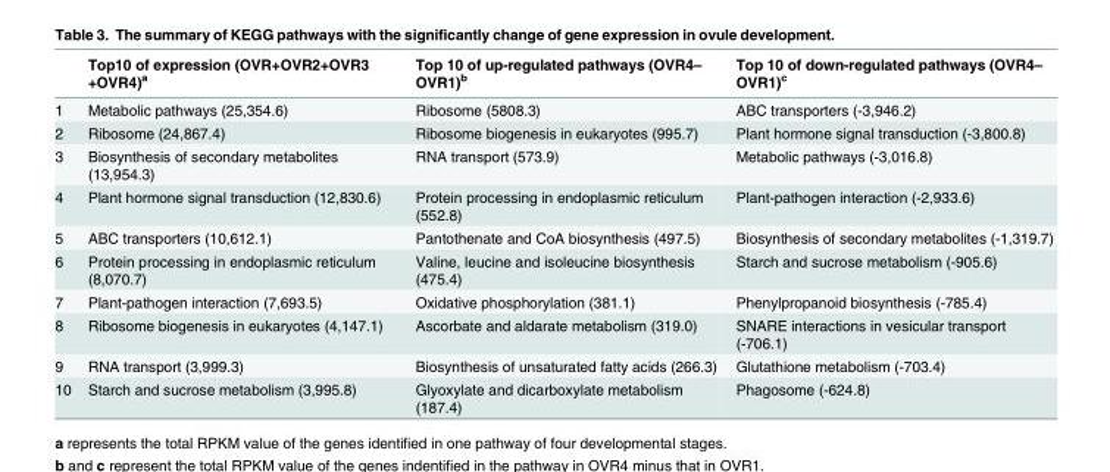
<table><thead><tr><td></td><td>Top10 of expression (OVR+OVR2+OVR3 +OVR4)<sup>a</sup></td><td>Top 10 of up-regulated pathways (OVR4– OVR1)<sup>b</sup></td><td>Top 10 of down-regulated pathways (OVR4– OVR1)<sup>c</sup></td></tr></thead><tbody><tr><td>1</td><td>Metabolic pathways (25,354.6)</td><td>Ribosome (5808.3)</td><td>ABC transporters (-3,946.2)</td></tr><tr><td>2</td><td>Ribosome (24,867.4)</td><td>Ribosome biogenesis in eukaryotes (995.7)</td><td>Plant hormone signal transduction (-3,800.8)</td></tr><tr><td>3</td><td>Biosynthesis of secondary metabolites (13,954.3)</td><td>RNA transport (573.9)</td><td>Metabolic pathways (-3,016.8)</td></tr><tr><td>4</td><td>Plant hormone signal transduction (12,830.6)</td><td>Protein processing in endoplasmic reticulum (552.8)</td><td>Plant-pathogen interaction (-2,933.6)</td></tr><tr><td>5</td><td>ABC transporters (10,612.1)</td><td>Pantothenate and CoA biosynthesis (497.5)</td><td>Biosynthesis of secondary metabolites (-1,319.7)</td></tr><tr><td>6</td><td>Protein processing in endoplasmic reticulum (8,070.7)</td><td>Valine, leucine and isoleucine biosynthesis (475.4)</td><td>Starch and sucrose metabolism (-905.6)</td></tr><tr><td>7</td><td>Plant-pathogen interaction (7,693.5)</td><td>Oxidative phosphorylation (381.1)</td><td>Phenylpropanoid biosynthesis (-785.4)</td></tr><tr><td>8</td><td>Ribosome biogenesis in eukaryotes (4,147.1)</td><td>Ascorbate and aldarate metabolism (319.0)</td><td>SNARE interactions in vesicular transport (-706.1)</td></tr><tr><td>9</td><td>RNA transport (3,999.3)</td><td>Biosynthesis of unsaturated fatty acids (266.3)</td><td>Glutathione metabolism (-703.4)</td></tr><tr><td>10</td><td>Starch and sucrose metabolism (3,995.8)</td><td>Glyoxylate and dicarboxylate metabolism (187.4)</td><td>Phagosome (-624.8)</td></tr></tbody></table>